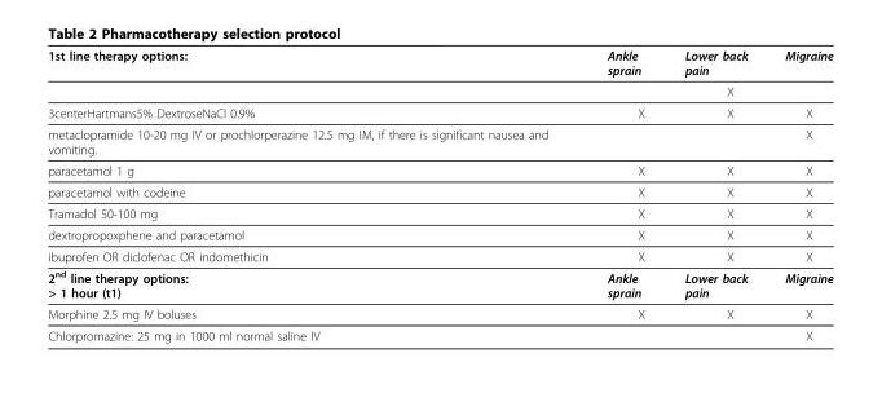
<table><thead><tr><td>1st line therapy options:</td><td>Ankle sprain</td><td>Lower back pain</td><td>Migraine</td></tr></thead><tbody><tr><td></td><td></td><td>X</td><td></td></tr><tr><td>3centerHartmans5% DextroseNaCl 0.9%</td><td>X</td><td>X</td><td>X</td></tr><tr><td>metaclopramide 10-20 mg IV or prochlorperazine 12.5 mg IM, if there is significant nausea and vomiting.</td><td></td><td></td><td>X</td></tr><tr><td>paracetamol 1 g</td><td>X</td><td>X</td><td>X</td></tr><tr><td>paracetamol with codeine</td><td>X</td><td>X</td><td>X</td></tr><tr><td>Tramadol 50-100 mg</td><td>X</td><td>X</td><td>X</td></tr><tr><td>dextropropoxphene and paracetamol</td><td>X</td><td>X</td><td>X</td></tr><tr><td>ibuprofen OR diclofenac OR indomethicin</td><td>X</td><td>X</td><td>X</td></tr><tr><td>2<sup>nd</sup> line therapy options: &gt; 1 hour (t1)</td><td>Ankle sprain</td><td>Lower back pain</td><td>Migraine</td></tr><tr><td>Morphine 2.5 mg IV boluses</td><td>X</td><td>X</td><td>X</td></tr><tr><td>Chlorpromazine: 25 mg in 1000 ml normal saline IV</td><td></td><td></td><td>X</td></tr></tbody></table>